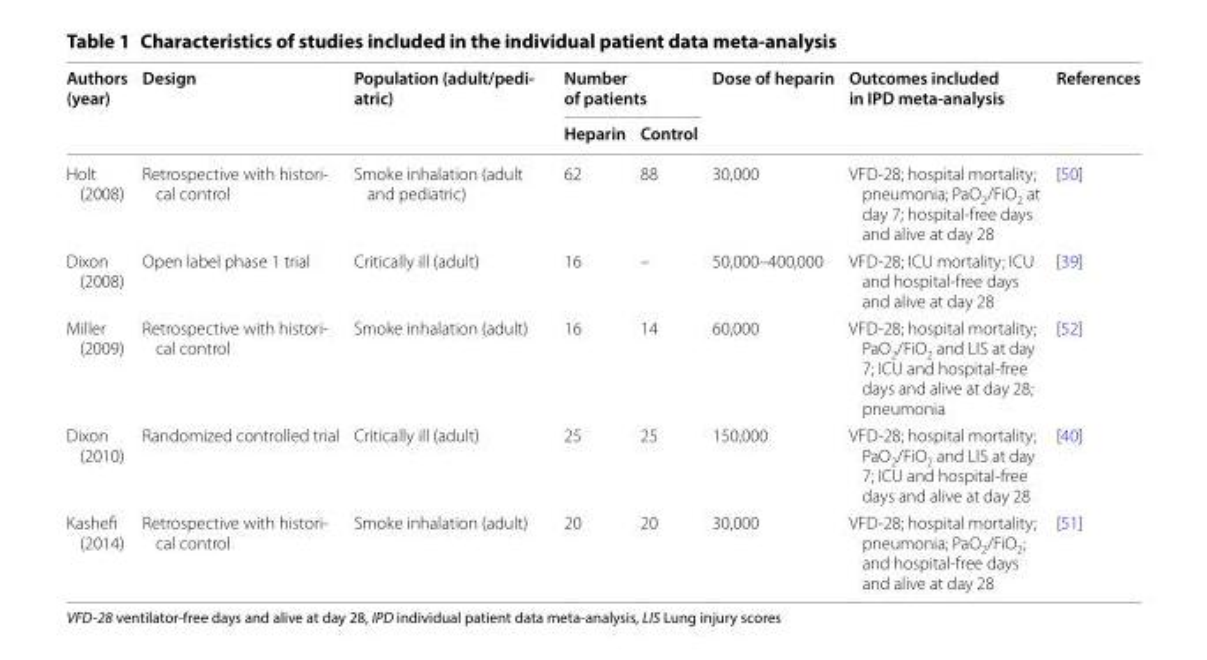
<table><thead><tr><td rowspan="2">Authors (year)</td><td rowspan="2">Design</td><td rowspan="2">Population (adult/pedi‑ atric)</td><td colspan="2">Number of patients</td><td rowspan="2">Dose of heparin</td><td rowspan="2">Outcomes included in IPD meta‑analysis</td><td rowspan="2">References</td></tr><tr><td>Heparin</td><td>Control</td></tr></thead><tbody><tr><td>Holt (2008)</td><td>Retrospective with histori- cal control</td><td>Smoke inhalation (adult and pediatric)</td><td>62</td><td>88</td><td>30,000</td><td>VFD-28; hospital mortality; pneumonia; PaO<sub>2</sub>/FiO<sub>2</sub> at day 7; hospital-free days and alive at day 28</td><td>[50]</td></tr><tr><td>Dixon (2008)</td><td>Open label phase 1 trial</td><td>Critically ill (adult)</td><td>16</td><td>–</td><td>50,000–400,000</td><td>VFD-28; ICU mortality; ICU and hospital-free days and alive at day 28</td><td>[39]</td></tr><tr><td>Miller (2009)</td><td>Retrospective with histori- cal control</td><td>Smoke inhalation (adult)</td><td>16</td><td>14</td><td>60,000</td><td>VFD-28; hospital mortality; PaO<sub>2</sub>/FiO<sub>2</sub> and LIS at day 7; ICU and hospital-free days and alive at day 28; pneumonia</td><td>[52]</td></tr><tr><td>Dixon (2010)</td><td>Randomized controlled trial</td><td>Critically ill (adult)</td><td>25</td><td>25</td><td>150,000</td><td>VFD-28; hospital mortality; PaO<sub>2</sub>/FiO<sub>2</sub> and LIS at day 7; ICU and hospital-free days and alive at day 28</td><td>[40]</td></tr><tr><td>Kashefi (2014)</td><td>Retrospective with histori- cal control</td><td>Smoke inhalation (adult)</td><td>20</td><td>20</td><td>30,000</td><td>VFD-28; hospital mortality; pneumonia; PaO<sub>2</sub>/FiO<sub>2</sub>; and hospital-free days and alive at day 28</td><td>[51]</td></tr></tbody></table>